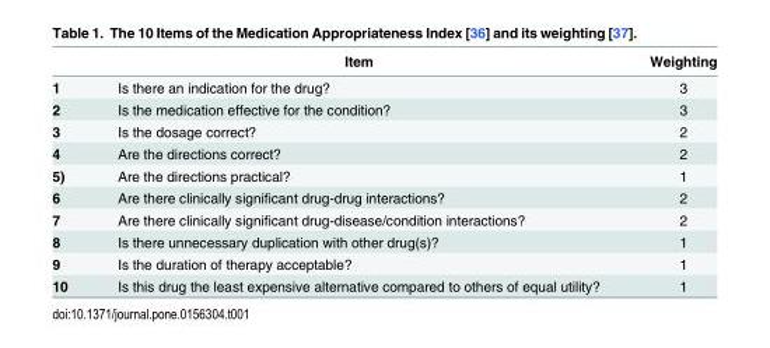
<table><thead><tr><td></td><td>Item</td><td>Weighting</td></tr></thead><tbody><tr><td>1</td><td>Is there an indication for the drug?</td><td>3</td></tr><tr><td>2</td><td>Is the medication effective for the condition?</td><td>3</td></tr><tr><td>3</td><td>Is the dosage correct?</td><td>2</td></tr><tr><td>4</td><td>Are the directions correct?</td><td>2</td></tr><tr><td>5)</td><td>Are the directions practical?</td><td>1</td></tr><tr><td>6</td><td>Are there clinically significant drug-drug interactions?</td><td>2</td></tr><tr><td>7</td><td>Are there clinically significant drug-disease/condition interactions?</td><td>2</td></tr><tr><td>8</td><td>Is there unnecessary duplication with other drug(s)?</td><td>1</td></tr><tr><td>9</td><td>Is the duration of therapy acceptable?</td><td>1</td></tr><tr><td>10</td><td>Is this drug the least expensive alternative compared to others of equal utility?</td><td>1</td></tr></tbody></table>